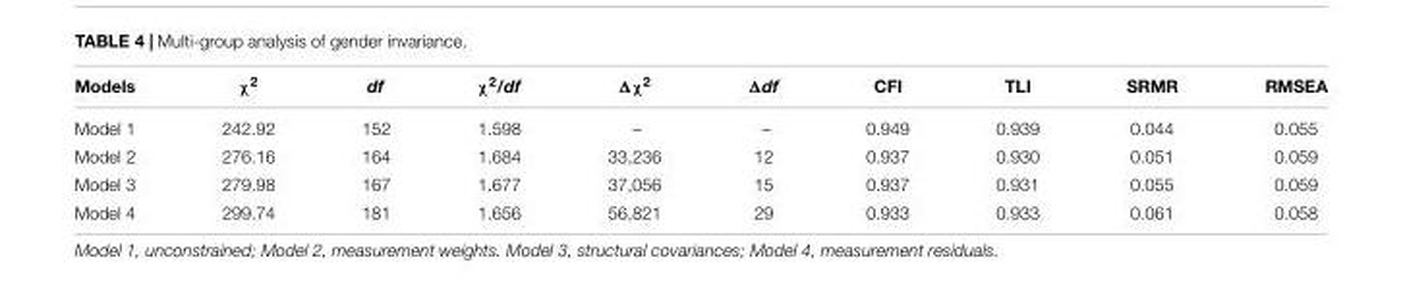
<table><thead><tr><td>Models</td><td>χ<sup>2</sup></td><td>df</td><td>χ<sup>2</sup>/df</td><td>Δχ<sup>2</sup></td><td>Δdf</td><td>CFI</td><td>TLI</td><td>SRMR</td><td>RMSEA</td></tr></thead><tbody><tr><td>Model 1</td><td>242.92</td><td>152</td><td>1.598</td><td>–</td><td>–</td><td>0.949</td><td>0.939</td><td>0.044</td><td>0.055</td></tr><tr><td>Model 2</td><td>276.16</td><td>164</td><td>1.684</td><td>33,236</td><td>12</td><td>0.937</td><td>0.930</td><td>0.051</td><td>0.059</td></tr><tr><td>Model 3</td><td>279.98</td><td>167</td><td>1.677</td><td>37,056</td><td>15</td><td>0.937</td><td>0.931</td><td>0.055</td><td>0.059</td></tr><tr><td>Model 4</td><td>299.74</td><td>181</td><td>1.656</td><td>56,821</td><td>29</td><td>0.933</td><td>0.933</td><td>0.061</td><td>0.058</td></tr></tbody></table>